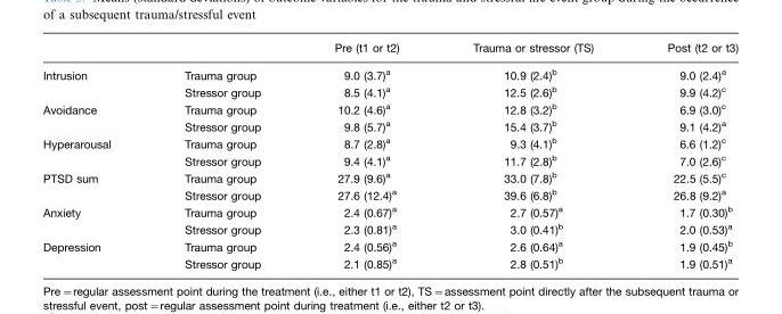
<table><thead><tr><td></td><td></td><td>Pre (t1 or t2)</td><td>Trauma or stressor (TS)</td><td>Post (t2 or t3)</td></tr></thead><tbody><tr><td rowspan="2">Intrusion</td><td>Trauma group</td><td>9.0 (3.7)<sup>a</sup></td><td>10.9 (2.4)<sup>b</sup></td><td>9.0 (2.4)<sup>a</sup></td></tr><tr><td>Stressor group</td><td>8.5 (4.1)<sup>a</sup></td><td>12.5 (2.6)<sup>b</sup></td><td>9.9 (4.2)<sup>c</sup></td></tr><tr><td rowspan="2">Avoidance</td><td>Trauma group</td><td>10.2 (4.6)<sup>a</sup></td><td>12.8 (3.2)<sup>b</sup></td><td>6.9 (3.0)<sup>c</sup></td></tr><tr><td>Stressor group</td><td>9.8 (5.7)<sup>a</sup></td><td>15.4 (3.7)<sup>b</sup></td><td>9.1 (4.2)<sup>a</sup></td></tr><tr><td rowspan="2">Hyperarousal</td><td>Trauma group</td><td>8.7 (2.8)<sup>a</sup></td><td>9.3 (4.1)<sup>b</sup></td><td>6.6 (1.2)<sup>c</sup></td></tr><tr><td>Stressor group</td><td>9.4 (4.1)<sup>a</sup></td><td>11.7 (2.8)<sup>b</sup></td><td>7.0 (2.6)<sup>c</sup></td></tr><tr><td rowspan="2">PTSD sum</td><td>Trauma group</td><td>27.9 (9.6)<sup>a</sup></td><td>33.0 (7.8)<sup>b</sup></td><td>22.5 (5.5)<sup>c</sup></td></tr><tr><td>Stressor group</td><td>27.6 (12.4)<sup>a</sup></td><td>39.6 (6.8)<sup>b</sup></td><td>26.8 (9.2)<sup>a</sup></td></tr><tr><td rowspan="2">Anxiety</td><td>Trauma group</td><td>2.4 (0.67)<sup>a</sup></td><td>2.7 (0.57)<sup>a</sup></td><td>1.7 (0.30)<sup>b</sup></td></tr><tr><td>Stressor group</td><td>2.3 (0.81)<sup>a</sup></td><td>3.0 (0.41)<sup>b</sup></td><td>2.0 (0.53)<sup>a</sup></td></tr><tr><td rowspan="2">Depression</td><td>Trauma group</td><td>2.4 (0.56)<sup>a</sup></td><td>2.6 (0.64)<sup>a</sup></td><td>1.9 (0.45)<sup>b</sup></td></tr><tr><td>Stressor group</td><td>2.1 (0.85)<sup>a</sup></td><td>2.8 (0.51)<sup>b</sup></td><td>1.9 (0.51)<sup>a</sup></td></tr></tbody></table>